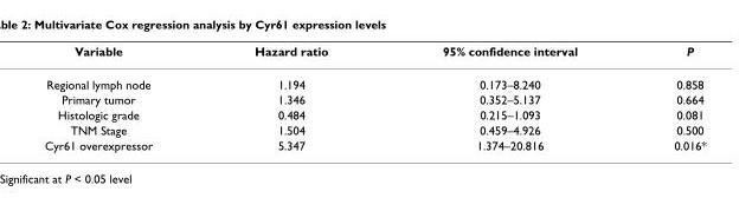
<table><thead><tr><td>Variable</td><td>Hazard ratio</td><td>95% confidence interval</td><td>P</td></tr></thead><tbody><tr><td>Regional lymph node</td><td>1.194</td><td>0.173–8.240</td><td>0.858</td></tr><tr><td>Primary tumor</td><td>1.346</td><td>0.352–5.137</td><td>0.664</td></tr><tr><td>Histologic grade</td><td>0.484</td><td>0.215–1.093</td><td>0.081</td></tr><tr><td>TNM Stage</td><td>1.504</td><td>0.459–4.926</td><td>0.500</td></tr><tr><td>Cyr61 overexpressor</td><td>5.347</td><td>1.374–20.816</td><td>0.016*</td></tr></tbody></table>